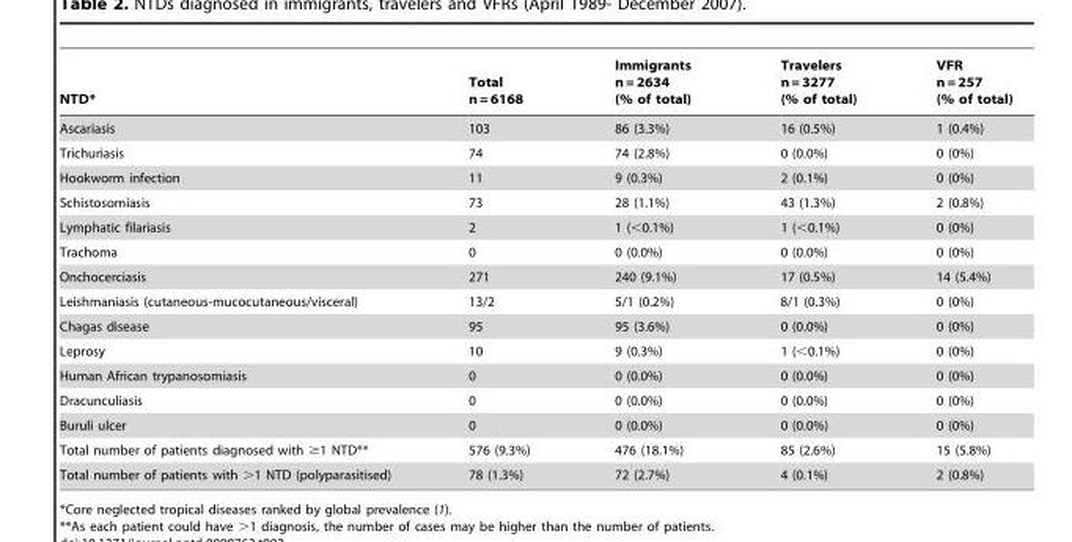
<table><thead><tr><td>NTD*</td><td>Total n = 6168</td><td>Immigrants n = 2634 (% of total)</td><td>Travelers n = 3277 (% of total)</td><td>VFR n = 257 (% of total)</td></tr></thead><tbody><tr><td>Ascariasis</td><td>103</td><td>86 (3.3%)</td><td>16 (0.5%)</td><td>1 (0.4%)</td></tr><tr><td>Trichuriasis</td><td>74</td><td>74 (2.8%)</td><td>0 (0.0%)</td><td>0 (0%)</td></tr><tr><td>Hookworm infection</td><td>11</td><td>9 (0.3%)</td><td>2 (0.1%)</td><td>0 (0%)</td></tr><tr><td>Schistosomiasis</td><td>73</td><td>28 (1.1%)</td><td>43 (1.3%)</td><td>2 (0.8%)</td></tr><tr><td>Lymphatic filariasis</td><td>2</td><td>1 (&lt;0.1%)</td><td>1 (&lt;0.1%)</td><td>0 (0%)</td></tr><tr><td>Trachoma</td><td>0</td><td>0 (0.0%)</td><td>0 (0.0%)</td><td>0 (0%)</td></tr><tr><td>Onchocerciasis</td><td>271</td><td>240 (9.1%)</td><td>17 (0.5%)</td><td>14 (5.4%)</td></tr><tr><td>Leishmaniasis (cutaneous-mucocutaneous/visceral)</td><td>13/2</td><td>5/1 (0.2%)</td><td>8/1 (0.3%)</td><td>0 (0%)</td></tr><tr><td>Chagas disease</td><td>95</td><td>95 (3.6%)</td><td>0 (0.0%)</td><td>0 (0%)</td></tr><tr><td>Leprosy</td><td>10</td><td>9 (0.3%)</td><td>1 (&lt;0.1%)</td><td>0 (0%)</td></tr><tr><td>Human African trypanosomiasis</td><td>0</td><td>0 (0.0%)</td><td>0 (0.0%)</td><td>0 (0%)</td></tr><tr><td>Dracunculiasis</td><td>0</td><td>0 (0.0%)</td><td>0 (0.0%)</td><td>0 (0%)</td></tr><tr><td>Buruli ulcer</td><td>0</td><td>0 (0.0%)</td><td>0 (0.0%)</td><td>0 (0%)</td></tr><tr><td>Total number of patients diagnosed with ≥1 NTD**</td><td>576 (9.3%)</td><td>476 (18.1%)</td><td>85 (2.6%)</td><td>15 (5.8%)</td></tr><tr><td>Total number of patients with &gt;1 NTD (polyparasitised)</td><td>78 (1.3%)</td><td>72 (2.7%)</td><td>4 (0.1%)</td><td>2 (0.8%)</td></tr></tbody></table>